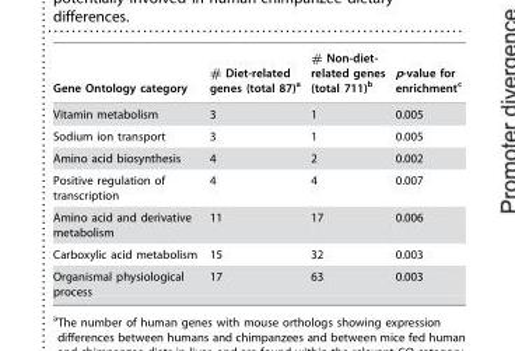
<table><thead><tr><td>Gene Ontology category</td><td># Diet-related genes (total 87)<sup>a</sup></td><td># Non-diet- related genes (total 711)<sup>b</sup></td><td>p-value for enrichment<sup>c</sup></td></tr></thead><tbody><tr><td>Vitamin metabolism</td><td>3</td><td>1</td><td>0.005</td></tr><tr><td>Sodium ion transport</td><td>3</td><td>1</td><td>0.005</td></tr><tr><td>Amino acid biosynthesis</td><td>4</td><td>2</td><td>0.002</td></tr><tr><td>Positive regulation of transcription</td><td>4</td><td>4</td><td>0.007</td></tr><tr><td>Amino acid and derivative metabolism</td><td>11</td><td>17</td><td>0.006</td></tr><tr><td>Carboxylic acid metabolism</td><td>15</td><td>32</td><td>0.003</td></tr><tr><td>Organismal physiological process</td><td>17</td><td>63</td><td>0.003</td></tr></tbody></table>